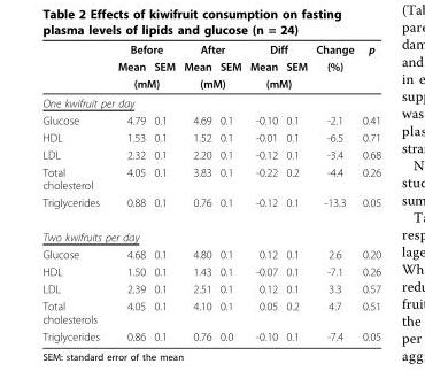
<table><thead><tr><td rowspan="3"></td><td colspan="2">Before</td><td colspan="2">After</td><td colspan="2">Diff</td><td rowspan="3">Change (%)</td><td rowspan="3">p</td></tr><tr><td>Mean</td><td>SEM</td><td>Mean</td><td>SEM</td><td>Mean</td><td>SEM</td></tr><tr><td colspan="2">(mM)</td><td colspan="2">(mM)</td><td colspan="2">(mM)</td></tr></thead><tbody><tr><td colspan="9">One kwifruit per day</td></tr><tr><td>Glucose</td><td>4.79</td><td>0.1</td><td>4.69</td><td>0.1</td><td>-0.10</td><td>0.1</td><td>-2.1</td><td>0.41</td></tr><tr><td>HDL</td><td>1.53</td><td>0.1</td><td>1.52</td><td>0.1</td><td>-0.01</td><td>0.1</td><td>-6.5</td><td>0.71</td></tr><tr><td>LDL</td><td>2.32</td><td>0.1</td><td>2.20</td><td>0.1</td><td>-0.12</td><td>0.1</td><td>-3.4</td><td>0.68</td></tr><tr><td>Total cholesterol</td><td>4.05</td><td>0.1</td><td>3.83</td><td>0.1</td><td>-0.22</td><td>0.2</td><td>-4.4</td><td>0.26</td></tr><tr><td>Triglycerides</td><td>0.88</td><td>0.1</td><td>0.76</td><td>0.1</td><td>-0.12</td><td>0.1</td><td>-13.3</td><td>0.05</td></tr><tr><td colspan="9">Two kwifruits per day</td></tr><tr><td>Glucose</td><td>4.68</td><td>0.1</td><td>4.80</td><td>0.1</td><td>0.12</td><td>0.1</td><td>2.6</td><td>0.20</td></tr><tr><td>HDL</td><td>1.50</td><td>0.1</td><td>1.43</td><td>0.1</td><td>-0.07</td><td>0.1</td><td>-7.1</td><td>0.26</td></tr><tr><td>LDL</td><td>2.39</td><td>0.1</td><td>2.51</td><td>0.1</td><td>0.12</td><td>0.1</td><td>3.3</td><td>0.57</td></tr><tr><td>Total cholesterols</td><td>4.05</td><td>0.1</td><td>4.10</td><td>0.1</td><td>0.05</td><td>0.2</td><td>4.7</td><td>0.51</td></tr><tr><td>Triglycerides</td><td>0.86</td><td>0.1</td><td>0.76</td><td>0.0</td><td>-0.10</td><td>0.1</td><td>-7.4</td><td>0.05</td></tr></tbody></table>